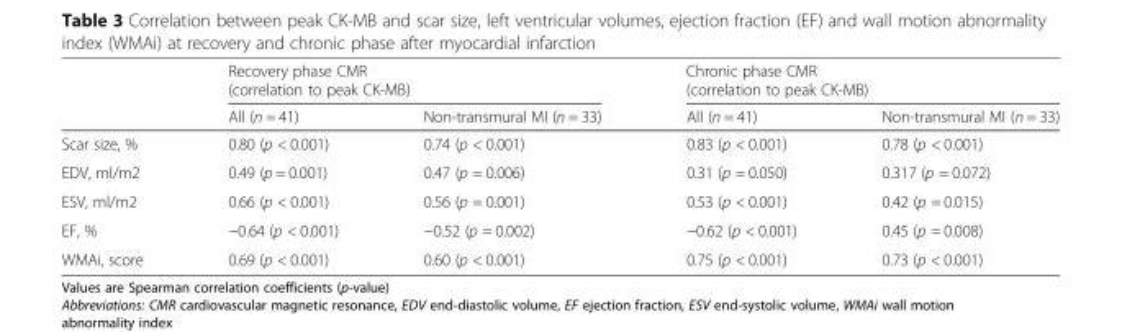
<table><thead><tr><td rowspan="2"></td><td colspan="2">Recovery phase CMR (correlation to peak CK-MB)</td><td colspan="2">Chronic phase CMR (correlation to peak CK-MB)</td></tr><tr><td>All (n = 41)</td><td>Non-transmural MI (n = 33)</td><td>All (n = 41)</td><td>Non-transmural MI (n = 33)</td></tr></thead><tbody><tr><td>Scar size, %</td><td>0.80 (p &lt; 0.001)</td><td>0.74 (p &lt; 0.001)</td><td>0.83 (p &lt; 0.001)</td><td>0.78 (p &lt; 0.001)</td></tr><tr><td>EDV, ml/m2</td><td>0.49 (p = 0.001)</td><td>0.47 (p = 0.006)</td><td>0.31 (p = 0.050)</td><td>0.317 (p = 0.072)</td></tr><tr><td>ESV, ml/m2</td><td>0.66 (p &lt; 0.001)</td><td>0.56 (p = 0.001)</td><td>0.53 (p &lt; 0.001)</td><td>0.42 (p = 0.015)</td></tr><tr><td>EF, %</td><td>−0.64 (p &lt; 0.001)</td><td>−0.52 (p = 0.002)</td><td>−0.62 (p &lt; 0.001)</td><td>0.45 (p = 0.008)</td></tr><tr><td>WMAi, score</td><td>0.69 (p &lt; 0.001)</td><td>0.60 (p &lt; 0.001)</td><td>0.75 (p &lt; 0.001)</td><td>0.73 (p &lt; 0.001)</td></tr></tbody></table>